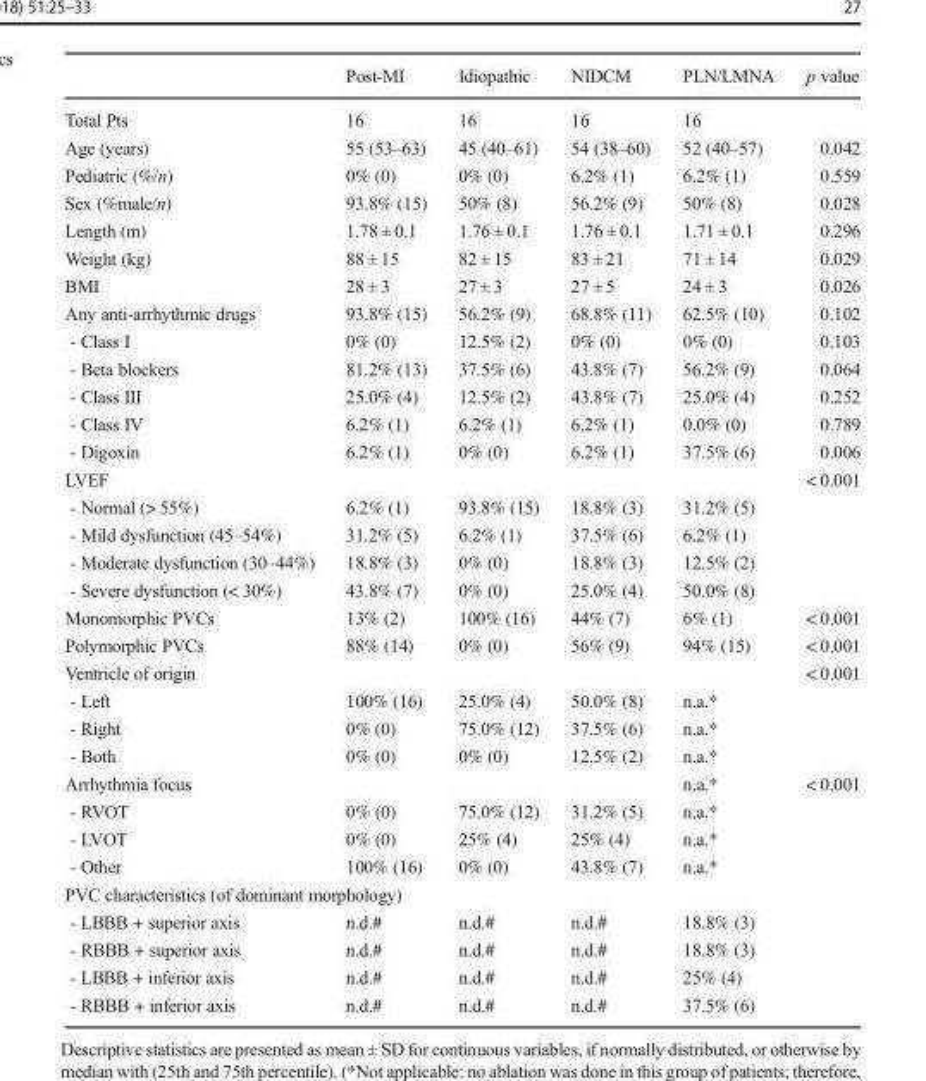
<table><thead><tr><td></td><td>Post-MI</td><td>Idiopathic</td><td>NIDCM</td><td>PLN/LMNA</td><td>p value</td></tr></thead><tbody><tr><td>Total Pts</td><td>16</td><td>16</td><td>16</td><td>16</td><td></td></tr><tr><td>Age (years)</td><td>55 (53–63)</td><td>45 (40–61)</td><td>54 (38–60)</td><td>52 (40–57)</td><td>0.042</td></tr><tr><td>Pediatric (%/n)</td><td>0% (0)</td><td>0% (0)</td><td>6.2% (1)</td><td>6.2% (1)</td><td>0.559</td></tr><tr><td>Sex (%male/n)</td><td>93.8% (15)</td><td>50% (8)</td><td>56.2% (9)</td><td>50% (8)</td><td>0.028</td></tr><tr><td>Length (m)</td><td>1.78 ± 0.1</td><td>1.76 ± 0.1</td><td>1.76 ± 0.1</td><td>1.71 ± 0.1</td><td>0.296</td></tr><tr><td>Weight (kg)</td><td>88 ± 15</td><td>82 ± 15</td><td>83 ± 21</td><td>71 ± 14</td><td>0.029</td></tr><tr><td>BMI</td><td>28 ± 3</td><td>27 ± 3</td><td>27 ± 5</td><td>24 ± 3</td><td>0.026</td></tr><tr><td>Any anti-arrhythmic drugs</td><td>93.8% (15)</td><td>56.2% (9)</td><td>68.8% (11)</td><td>62.5% (10)</td><td>0.102</td></tr><tr><td>- Class I</td><td>0% (0)</td><td>12.5% (2)</td><td>0% (0)</td><td>0% (0)</td><td>0.103</td></tr><tr><td>- Beta blockers</td><td>81.2% (13)</td><td>37.5% (6)</td><td>43.8% (7)</td><td>56.2% (9)</td><td>0.064</td></tr><tr><td>- Class III</td><td>25.0% (4)</td><td>12.5% (2)</td><td>43.8% (7)</td><td>25.0% (4)</td><td>0.252</td></tr><tr><td>- Class IV</td><td>6.2% (1)</td><td>6.2% (1)</td><td>6.2% (1)</td><td>0.0% (0)</td><td>0.789</td></tr><tr><td>- Digoxin</td><td>6.2% (1)</td><td>0% (0)</td><td>6.2% (1)</td><td>37.5% (6)</td><td>0.006</td></tr><tr><td colspan="5">LVEF</td><td>&lt; 0.001</td></tr><tr><td>- Normal (&gt; 55%)</td><td>6.2% (1)</td><td>93.8% (15)</td><td>18.8% (3)</td><td>31.2% (5)</td><td></td></tr><tr><td>- Mild dysfunction (45–54%)</td><td>31.2% (5)</td><td>6.2% (1)</td><td>37.5% (6)</td><td>6.2% (1)</td><td></td></tr><tr><td>- Moderate dysfunction (30–44%)</td><td>18.8% (3)</td><td>0% (0)</td><td>18.8% (3)</td><td>12.5% (2)</td><td></td></tr><tr><td>- Severe dysfunction (&lt; 30%)</td><td>43.8% (7)</td><td>0% (0)</td><td>25.0% (4)</td><td>50.0% (8)</td><td></td></tr><tr><td>Monomorphic PVCs</td><td>13% (2)</td><td>100% (16)</td><td>44% (7)</td><td>6% (1)</td><td>&lt; 0.001</td></tr><tr><td>Polymorphic PVCs</td><td>88% (14)</td><td>0% (0)</td><td>56% (9)</td><td>94% (15)</td><td>&lt; 0.001</td></tr><tr><td colspan="5">Ventricle of origin</td><td>&lt; 0.001</td></tr><tr><td>- Left</td><td>100% (16)</td><td>25.0% (4)</td><td>50.0% (8)</td><td>n.a.*</td><td></td></tr><tr><td>- Right</td><td>0% (0)</td><td>75.0% (12)</td><td>37.5% (6)</td><td>n.a.*</td><td></td></tr><tr><td>- Both</td><td>0% (0)</td><td>0% (0)</td><td>12.5% (2)</td><td>n.a.*</td><td></td></tr><tr><td>Arrhythmia focus</td><td></td><td></td><td></td><td>n.a.*</td><td>&lt; 0.001</td></tr><tr><td>- RVOT</td><td>0% (0)</td><td>75.0% (12)</td><td>31.2% (5)</td><td>n.a.*</td><td></td></tr><tr><td>- LVOT</td><td>0% (0)</td><td>25% (4)</td><td>25% (4)</td><td>n.a.*</td><td></td></tr><tr><td>- Other</td><td>100% (16)</td><td>0% (0)</td><td>43.8% (7)</td><td>n.a.*</td><td></td></tr><tr><td colspan="6">PVC characteristics (of dominant morphology)</td></tr><tr><td>- LBBB + superior axis</td><td>n.d.#</td><td>n.d.#</td><td>n.d.#</td><td>18.8% (3)</td><td></td></tr><tr><td>- RBBB + superior axis</td><td>n.d.#</td><td>n.d.#</td><td>n.d.#</td><td>18.8% (3)</td><td></td></tr><tr><td>- LBBB + inferior axis</td><td>n.d.#</td><td>n.d.#</td><td>n.d.#</td><td>25% (4)</td><td></td></tr><tr><td>- RBBB + inferior axis</td><td>n.d.#</td><td>n.d.#</td><td>n.d.#</td><td>37.5% (6)</td><td></td></tr></tbody></table>